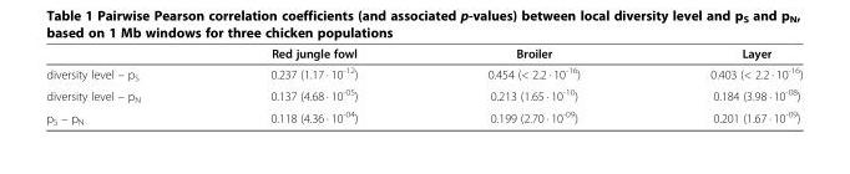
<table><thead><tr><td></td><td>Red jungle fowl</td><td>Broiler</td><td>Layer</td></tr></thead><tbody><tr><td>diversity level – p<sub>S</sub></td><td>0.237 (1.17 · 10<sup>-12</sup>)</td><td>0.454 (&lt; 2.2 · 10<sup>-16</sup>)</td><td>0.403 (&lt; 2.2 · 10<sup>-16</sup>)</td></tr><tr><td>diversity level – p<sub>N</sub></td><td>0.137 (4.68 · 10<sup>-05</sup>)</td><td>0.213 (1.65 · 10<sup>-10</sup>)</td><td>0.184 (3.98 · 10<sup>-08</sup>)</td></tr><tr><td>p<sub>S</sub> – p<sub>N</sub></td><td>0.118 (4.36 · 10<sup>-04</sup>)</td><td>0.199 (2.70 · 10<sup>-09</sup>)</td><td>0.201 (1.67 · 10<sup>-09</sup>)</td></tr></tbody></table>